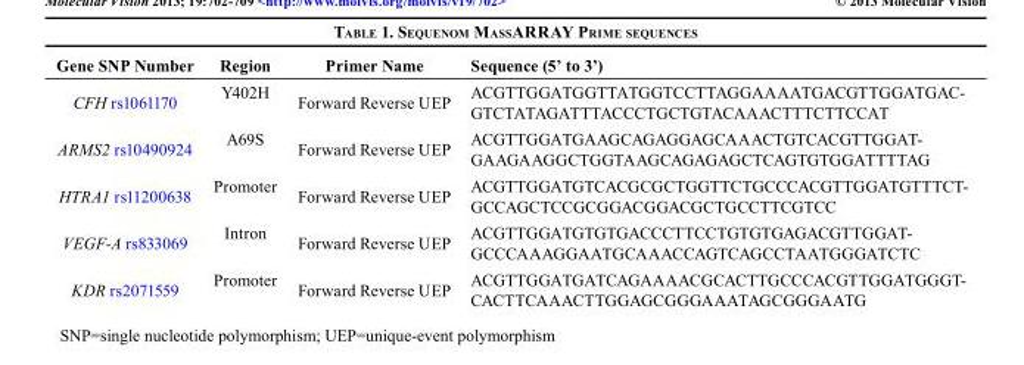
<table><thead><tr><td>Gene SNP Number</td><td>Region</td><td>Primer Name</td><td>Sequence (5’ to 3’)</td></tr></thead><tbody><tr><td>CFH rs1061170</td><td>Y402H</td><td>Forward Reverse UEP</td><td>ACGTTGGATGGTTATGGTCCTTAGGAAAATGACGTTGGATGAC- GTCTATAGATTTACCCTGCTGTACAAACTTTCTTCCAT</td></tr><tr><td>ARMS2 rs10490924</td><td>A69S</td><td>Forward Reverse UEP</td><td>ACGTTGGATGAAGCAGAGGAGCAAACTGTCACGTTGGAT- GAAGAAGGCTGGTAAGCAGAGAGCTCAGTGTGGATTTTAG</td></tr><tr><td>HTRA1 rs11200638</td><td>Promoter</td><td>Forward Reverse UEP</td><td>ACGTTGGATGTCACGCGCTGGTTCTGCCCACGTTGGATGTTTCT- GCCAGCTCCGCGGACGGACGCTGCCTTCGTCC</td></tr><tr><td>VEGF-A rs833069</td><td>Intron</td><td>Forward Reverse UEP</td><td>ACGTTGGATGTGTGACCCTTCCTGTGTGAGACGTTGGAT- GCCCAAAGGAATGCAAACCAGTCAGCCTAATGGGATCTC</td></tr><tr><td>KDR rs2071559</td><td>Promoter</td><td>Forward Reverse UEP</td><td>ACGTTGGATGATCAGAAAACGCACTTGCCCACGTTGGATGGGT- CACTTCAAACTTGGAGCGGGAAATAGCGGGAATG</td></tr></tbody></table>